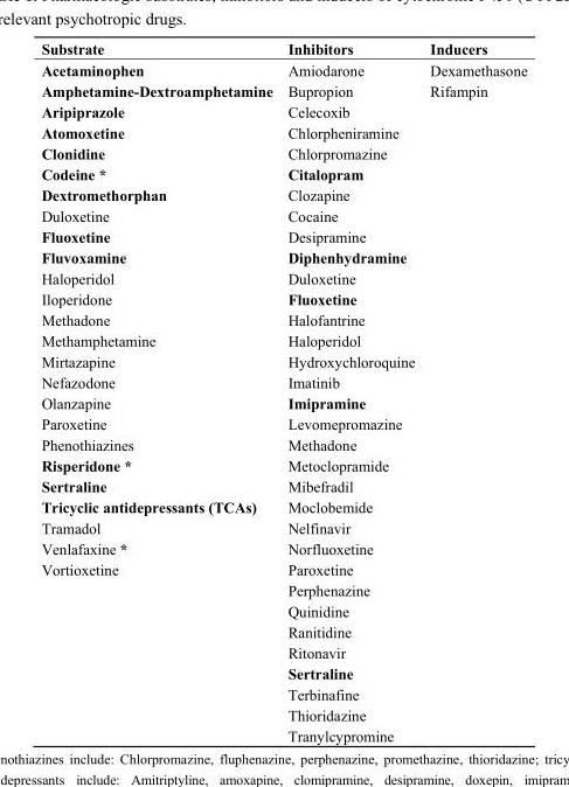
<table><thead><tr><td>Substrate</td><td>Inhibitors</td><td>Inducers</td></tr></thead><tbody><tr><td>Acetaminophen</td><td>Amiodarone</td><td>Dexamethasone</td></tr><tr><td>Amphetamine-Dextroamphetamine</td><td>Bupropion</td><td>Rifampin</td></tr><tr><td>Aripiprazole</td><td>Celecoxib</td><td></td></tr><tr><td>Atomoxetine</td><td>Chlorpheniramine</td><td></td></tr><tr><td>Clonidine</td><td>Chlorpromazine</td><td></td></tr><tr><td>Codeine *</td><td>Citalopram</td><td></td></tr><tr><td>Dextromethorphan</td><td>Clozapine</td><td></td></tr><tr><td>Duloxetine</td><td>Cocaine</td><td></td></tr><tr><td>Fluoxetine</td><td>Desipramine</td><td></td></tr><tr><td>Fluvoxamine</td><td>Diphenhydramine</td><td></td></tr><tr><td>Haloperidol</td><td>Duloxetine</td><td></td></tr><tr><td>Iloperidone</td><td>Fluoxetine</td><td></td></tr><tr><td>Methadone</td><td>Halofantrine</td><td></td></tr><tr><td>Methamphetamine</td><td>Haloperidol</td><td></td></tr><tr><td>Mirtazapine</td><td>Hydroxychloroquine</td><td></td></tr><tr><td>Nefazodone</td><td>Imatinib</td><td></td></tr><tr><td>Olanzapine</td><td>Imipramine</td><td></td></tr><tr><td>Paroxetine</td><td>Levomepromazine</td><td></td></tr><tr><td>Phenothiazines</td><td>Methadone</td><td></td></tr><tr><td>Risperidone *</td><td>Metoclopramide</td><td></td></tr><tr><td>Sertraline</td><td>Mibefradil</td><td></td></tr><tr><td>Tricyclic antidepressants (TCAs)</td><td>Moclobemide</td><td></td></tr><tr><td>Tramadol</td><td>Nelfinavir</td><td></td></tr><tr><td>Venlafaxine *</td><td>Norfluoxetine</td><td></td></tr><tr><td rowspan="9">Vortioxetine</td><td>Paroxetine</td><td></td></tr><tr><td>Perphenazine</td><td></td></tr><tr><td>Quinidine</td><td></td></tr><tr><td>Ranitidine</td><td></td></tr><tr><td>Ritonavir</td><td></td></tr><tr><td>Sertraline</td><td></td></tr><tr><td>Terbinafine</td><td></td></tr><tr><td>Thioridazine</td><td></td></tr><tr><td>Tranylcypromine</td><td></td></tr></tbody></table>